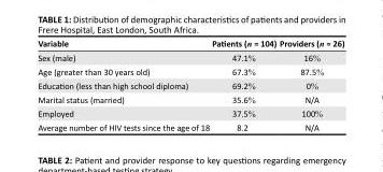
<table><thead><tr><td>Variable</td><td>Patients (n = 104)</td><td>Providers (n = 26)</td></tr></thead><tbody><tr><td>Sex (male)</td><td>47.1%</td><td>16%</td></tr><tr><td>Age (greater than 30 years old)</td><td>67.3%</td><td>87.5%</td></tr><tr><td>Education (less than high school diploma)</td><td>69.2%</td><td>0%</td></tr><tr><td>Marital status (married)</td><td>35.6%</td><td>N/A</td></tr><tr><td>Employed</td><td>37.5%</td><td>100%</td></tr><tr><td>Average number of HIV tests since the age of 18</td><td>8.2</td><td>N/A</td></tr></tbody></table>